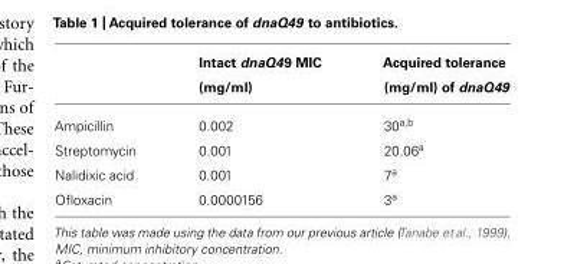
<table><thead><tr><td></td><td>Intact dnaQ49 MIC (mg/ml)</td><td>Acquired tolerance (mg/ml) of dnaQ49</td></tr></thead><tbody><tr><td>Ampicillin</td><td>0.002</td><td>30a,b</td></tr><tr><td>Streptomycin</td><td>0.001</td><td>20.06<sup>a</sup></td></tr><tr><td>Nalidixic acid</td><td>0.001</td><td>7<sup>a</sup></td></tr><tr><td>Ofloxacin</td><td>0.0000156</td><td>3<sup>a</sup></td></tr></tbody></table>